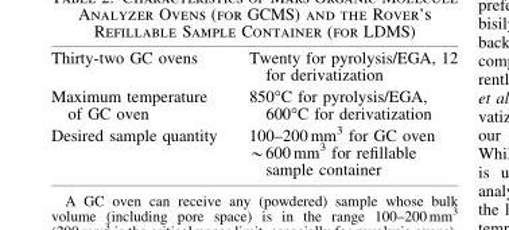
<table><tbody><tr><td>Thirty-two GC ovens</td><td>Twenty for pyrolysis/EGA, 12 for derivatization</td></tr><tr><td>Maximum temperature of GC oven</td><td>850°C for pyrolysis/EGA, 600°C for derivatization</td></tr><tr><td>Desired sample quantity</td><td>100–200 mm3 for GC oven *600 mm3 for refillable sample container</td></tr></tbody></table>